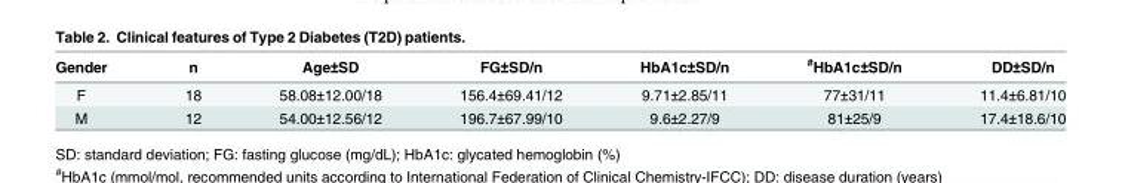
<table><thead><tr><td>Gender</td><td>n</td><td>Age±SD</td><td>FG±SD/n</td><td>HbA1c±SD/n</td><td><sup>#</sup>HbA1c±SD/n</td><td>DD±SD/n</td></tr></thead><tbody><tr><td>F</td><td>18</td><td>58.08±12.00/18</td><td>156.4±69.41/12</td><td>9.71±2.85/11</td><td>77±31/11</td><td>11.4±6.81/10</td></tr><tr><td>M</td><td>12</td><td>54.00±12.56/12</td><td>196.7±67.99/10</td><td>9.6±2.27/9</td><td>81±25/9</td><td>17.4±18.6/10</td></tr></tbody></table>